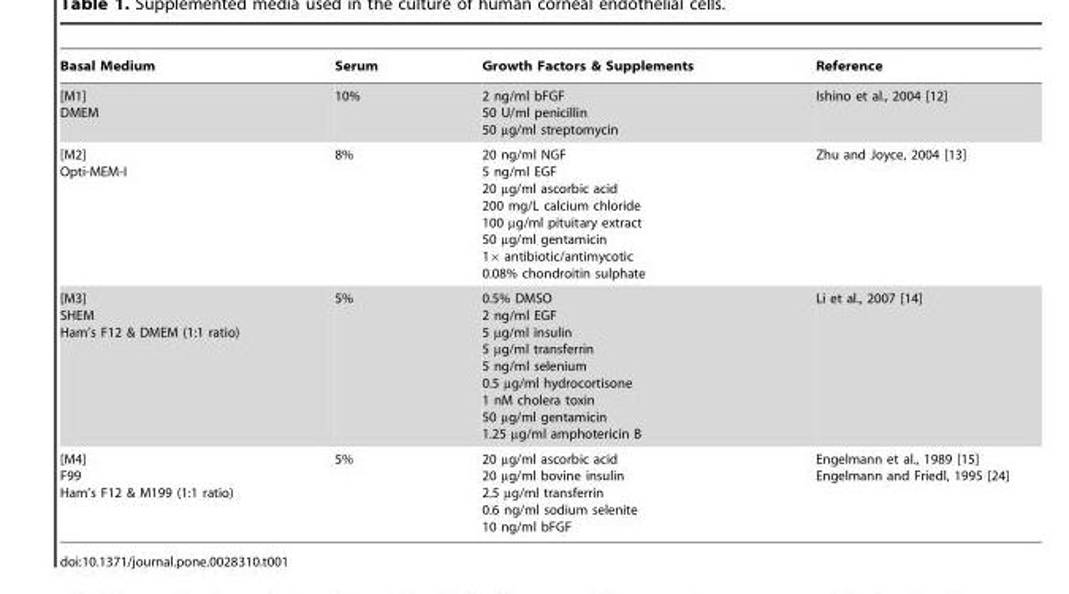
<table><thead><tr><td>Basal Medium</td><td>Serum</td><td>Growth Factors &amp; Supplements</td><td>Reference</td></tr></thead><tbody><tr><td>[M1] DMEM</td><td>10%</td><td>2 ng/ml bFGF 50 U/ml penicillin 50 µg/ml streptomycin</td><td>Ishino et al., 2004 [12]</td></tr><tr><td>[M2] Opti-MEM-I</td><td>8%</td><td>20 ng/ml NGF 5 ng/ml EGF 20 µg/ml ascorbic acid 200 mg/L calcium chloride 100 µg/ml pituitary extract 50 µg/ml gentamicin 1× antibiotic/antimycotic 0.08% chondroitin sulphate</td><td>Zhu and Joyce, 2004 [13]</td></tr><tr><td>[M3] SHEM Ham’s F12 &amp; DMEM (1:1 ratio)</td><td>5%</td><td>0.5% DMSO 2 ng/ml EGF 5 µg/ml insulin 5 µg/ml transferrin 5 ng/ml selenium 0.5 µg/ml hydrocortisone 1 nM cholera toxin 50 µg/ml gentamicin 1.25 µg/ml amphotericin B</td><td>Li et al., 2007 [14]</td></tr><tr><td>[M4] F99 Ham’s F12 &amp; M199 (1:1 ratio)</td><td>5%</td><td>20 µg/ml ascorbic acid 20 µg/ml bovine insulin 2.5 µg/ml transferrin 0.6 ng/ml sodium selenite 10 ng/ml bFGF</td><td>Engelmann et al., 1989 [15] Engelmann and Friedl, 1995 [24]</td></tr></tbody></table>